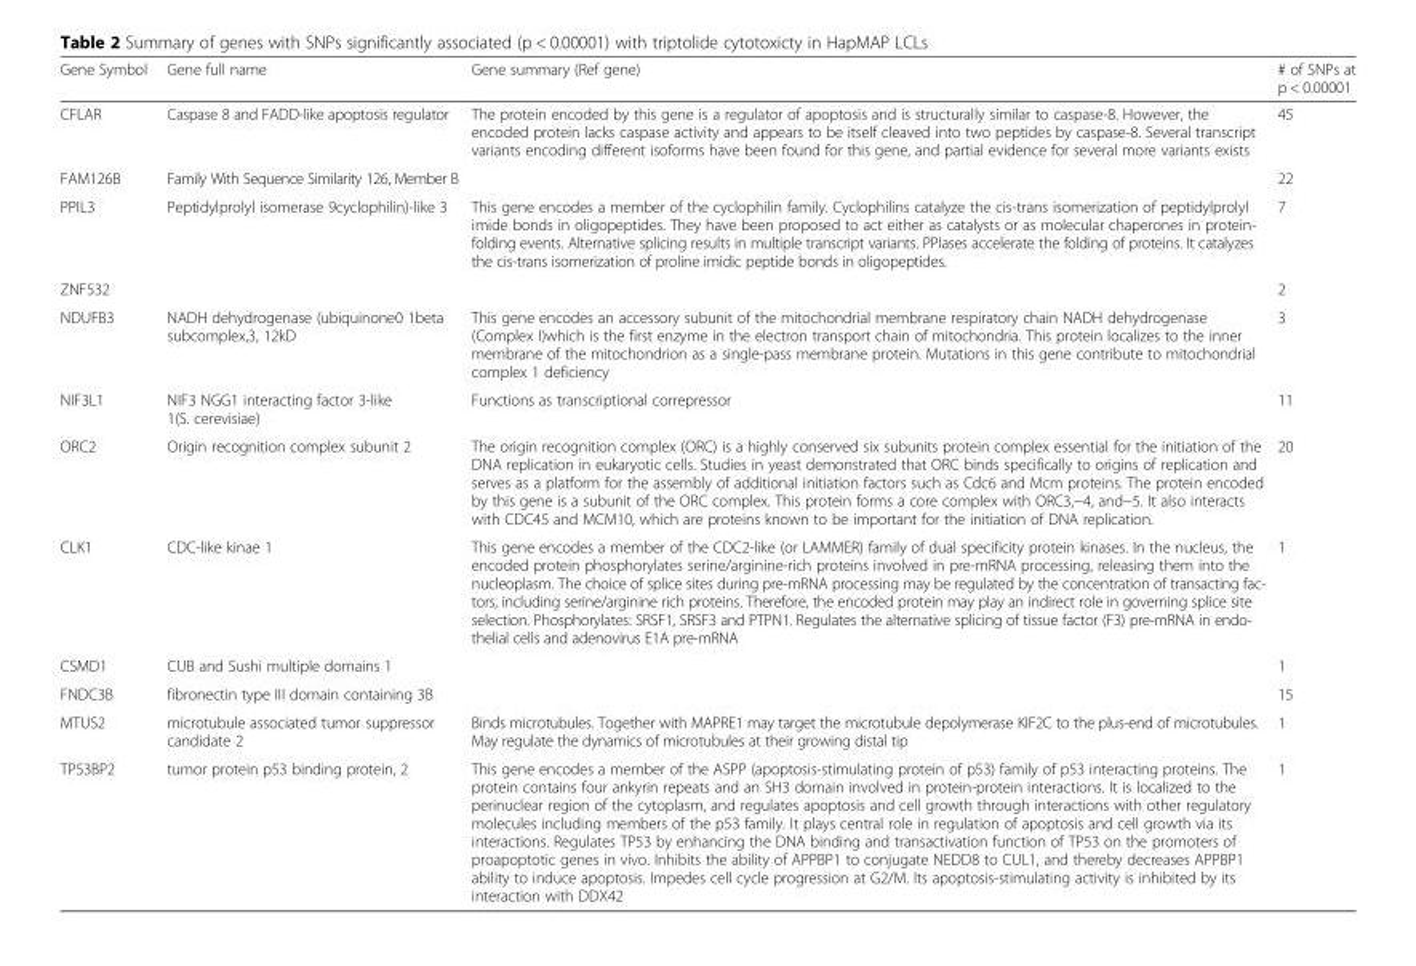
<table><thead><tr><td>Gene Symbol</td><td>Gene full name</td><td>Gene summary (Ref gene)</td><td># of SNPs at p &lt; 0.00001</td></tr></thead><tbody><tr><td>CFLAR</td><td>Caspase 8 and FADD-like apoptosis regulator</td><td>The protein encoded by this gene is a regulator of apoptosis and is structurally similar to caspase-8. However, the encoded protein lacks caspase activity and appears to be itself cleaved into two peptides by caspase-8. Several transcript variants encoding different isoforms have been found for this gene, and partial evidence for several more variants exists</td><td>45</td></tr><tr><td>FAM126B</td><td>Family With Sequence Similarity 126, Member B</td><td></td><td>22</td></tr><tr><td>PPIL3</td><td>Peptidylprolyl isomerase 9cyclophilin)-like 3</td><td>This gene encodes a member of the cyclophilin family. Cyclophilins catalyze the cis-trans isomerization of peptidylprolyl imide bonds in oligopeptides. They have been proposed to act either as catalysts or as molecular chaperones in protein- folding events. Alternative splicing results in multiple transcript variants. PPIases accelerate the folding of proteins. It catalyzes the cis-trans isomerization of proline imidic peptide bonds in oligopeptides.</td><td>7</td></tr><tr><td>ZNF532</td><td></td><td></td><td>2</td></tr><tr><td>NDUFB3</td><td>NADH dehydrogenase (ubiquinone0 1beta subcomplex,3, 12kD</td><td>This gene encodes an accessory subunit of the mitochondrial membrane respiratory chain NADH dehydrogenase (Complex I)which is the first enzyme in the electron transport chain of mitochondria. This protein localizes to the inner membrane of the mitochondrion as a single-pass membrane protein. Mutations in this gene contribute to mitochondrial complex 1 deficiency</td><td>3</td></tr><tr><td>NIF3L1</td><td>NIF3 NGG1 interacting factor 3-like 1(S. cerevisiae)</td><td>Functions as transcriptional correpressor</td><td>11</td></tr><tr><td>ORC2</td><td>Origin recognition complex subunit 2</td><td>The origin recognition complex (ORC) is a highly conserved six subunits protein complex essential for the initiation of the DNA replication in eukaryotic cells. Studies in yeast demonstrated that ORC binds specifically to origins of replication and serves as a platform for the assembly of additional initiation factors such as Cdc6 and Mcm proteins. The protein encoded by this gene is a subunit of the ORC complex. This protein forms a core complex with ORC3,−4, and−5. It also interacts with CDC45 and MCM10, which are proteins known to be important for the initiation of DNA replication.</td><td>20</td></tr><tr><td>CLK1</td><td>CDC-like kinae 1</td><td>This gene encodes a member of the CDC2-like (or LAMMER) family of dual specificity protein kinases. In the nucleus, the encoded protein phosphorylates serine/arginine-rich proteins involved in pre-mRNA processing, releasing them into the nucleoplasm. The choice of splice sites during pre-mRNA processing may be regulated by the concentration of transacting fac- tors, including serine/arginine rich proteins. Therefore, the encoded protein may play an indirect role in governing splice site selection. Phosphorylates: SRSF1, SRSF3 and PTPN1. Regulates the alternative splicing of tissue factor (F3) pre-mRNA in endo- thelial cells and adenovirus E1A pre-mRNA</td><td>1</td></tr><tr><td>CSMD1</td><td>CUB and Sushi multiple domains 1</td><td></td><td>1</td></tr><tr><td>FNDC3B</td><td>fibronectin type III domain containing 3B</td><td></td><td>15</td></tr><tr><td>MTUS2</td><td>microtubule associated tumor suppressor candidate 2</td><td>Binds microtubules. Together with MAPRE1 may target the microtubule depolymerase KIF2C to the plus-end of microtubules. May regulate the dynamics of microtubules at their growing distal tip</td><td>1</td></tr><tr><td>TP53BP2</td><td>tumor protein p53 binding protein, 2</td><td>This gene encodes a member of the ASPP (apoptosis-stimulating protein of p53) family of p53 interacting proteins. The protein contains four ankyrin repeats and an SH3 domain involved in protein-protein interactions. It is localized to the perinuclear region of the cytoplasm, and regulates apoptosis and cell growth through interactions with other regulatory molecules including members of the p53 family. It plays central role in regulation of apoptosis and cell growth via its interactions. Regulates TP53 by enhancing the DNA binding and transactivation function of TP53 on the promoters of proapoptotic genes in vivo. Inhibits the ability of APPBP1 to conjugate NEDD8 to CUL1, and thereby decreases APPBP1 ability to induce apoptosis. Impedes cell cycle progression at G2/M. Its apoptosis-stimulating activity is inhibited by its interaction with DDX42</td><td>1</td></tr></tbody></table>